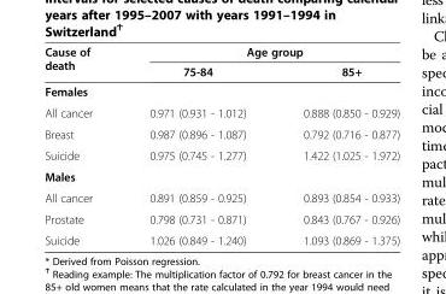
<table><thead><tr><td rowspan="2">Cause of death</td><td colspan="2">Age group</td></tr><tr><td>75-84</td><td>85+</td></tr></thead><tbody><tr><td colspan="3">Females</td></tr><tr><td>All cancer</td><td>0.971 (0.931 - 1.012)</td><td>0.888 (0.850 - 0.929)</td></tr><tr><td>Breast</td><td>0.987 (0.896 - 1.087)</td><td>0.792 (0.716 - 0.877)</td></tr><tr><td>Suicide</td><td>0.975 (0.745 - 1.277)</td><td>1.422 (1.025 - 1.972)</td></tr><tr><td colspan="3">Males</td></tr><tr><td>All cancer</td><td>0.891 (0.859 - 0.925)</td><td>0.893 (0.854 - 0.933)</td></tr><tr><td>Prostate</td><td>0.798 (0.731 - 0.871)</td><td>0.843 (0.767 - 0.926)</td></tr><tr><td>Suicide</td><td>1.026 (0.849 - 1.240)</td><td>1.093 (0.869 - 1.375)</td></tr></tbody></table>